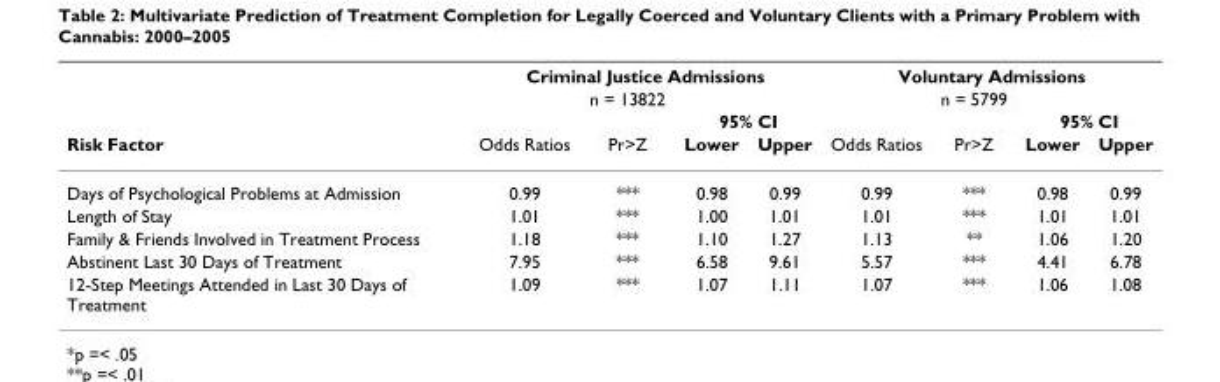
<table><thead><tr><td rowspan="4">Risk Factor</td><td colspan="4">Criminal Justice Admissions</td><td colspan="4">Voluntary Admissions</td></tr><tr><td rowspan="3">Odds Ratios</td><td rowspan="3">n = 13822 Pr&gt;Z</td><td></td><td></td><td rowspan="3">Odds Ratios</td><td rowspan="3">n = 5799 Pr&gt;Z</td><td></td><td></td></tr><tr><td colspan="2">95% CI</td><td colspan="2">95% CI</td></tr><tr><td>Lower</td><td>Upper</td><td>Lower</td><td>Upper</td></tr></thead><tbody><tr><td>Days of Psychological Problems at Admission</td><td>0.99</td><td>***</td><td>0.98</td><td>0.99</td><td>0.99</td><td>***</td><td>0.98</td><td>0.99</td></tr><tr><td>Length of Stay</td><td>1.01</td><td>***</td><td>1.00</td><td>1.01</td><td>1.01</td><td>***</td><td>1.01</td><td>1.01</td></tr><tr><td>Family &amp; Friends Involved in Treatment Process</td><td>1.18</td><td>***</td><td>1.10</td><td>1.27</td><td>1.13</td><td>**</td><td>1.06</td><td>1.20</td></tr><tr><td>Abstinent Last 30 Days of Treatment</td><td>7.95</td><td>***</td><td>6.58</td><td>9.61</td><td>5.57</td><td>***</td><td>4.41</td><td>6.78</td></tr><tr><td>12-Step Meetings Attended in Last 30 Days of Treatment</td><td>1.09</td><td>***</td><td>1.07</td><td>1.11</td><td>1.07</td><td>***</td><td>1.06</td><td>1.08</td></tr></tbody></table>